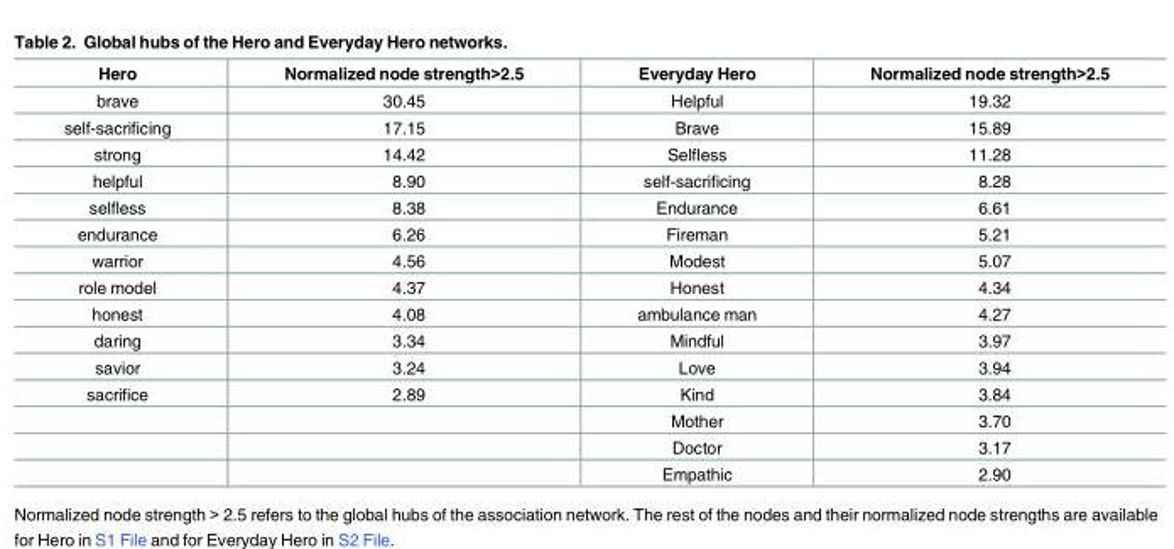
<table><thead><tr><td>Hero</td><td>Normalized node strength&gt;2.5</td><td>Everyday Hero</td><td>Normalized node strength&gt;2.5</td></tr></thead><tbody><tr><td>brave</td><td>30.45</td><td>Helpful</td><td>19.32</td></tr><tr><td>self-sacrificing</td><td>17.15</td><td>Brave</td><td>15.89</td></tr><tr><td>strong</td><td>14.42</td><td>Selfless</td><td>11.28</td></tr><tr><td>helpful</td><td>8.90</td><td>self-sacrificing</td><td>8.28</td></tr><tr><td>selfless</td><td>8.38</td><td>Endurance</td><td>6.61</td></tr><tr><td>endurance</td><td>6.26</td><td>Fireman</td><td>5.21</td></tr><tr><td>warrior</td><td>4.56</td><td>Modest</td><td>5.07</td></tr><tr><td>role model</td><td>4.37</td><td>Honest</td><td>4.34</td></tr><tr><td>honest</td><td>4.08</td><td>ambulance man</td><td>4.27</td></tr><tr><td>daring</td><td>3.34</td><td>Mindful</td><td>3.97</td></tr><tr><td>savior</td><td>3.24</td><td>Love</td><td>3.94</td></tr><tr><td rowspan="4">sacrifice</td><td>2.89</td><td>Kind</td><td>3.84</td></tr><tr><td></td><td>Mother</td><td>3.70</td></tr><tr><td></td><td>Doctor</td><td>3.17</td></tr><tr><td></td><td>Empathic</td><td>2.90</td></tr></tbody></table>